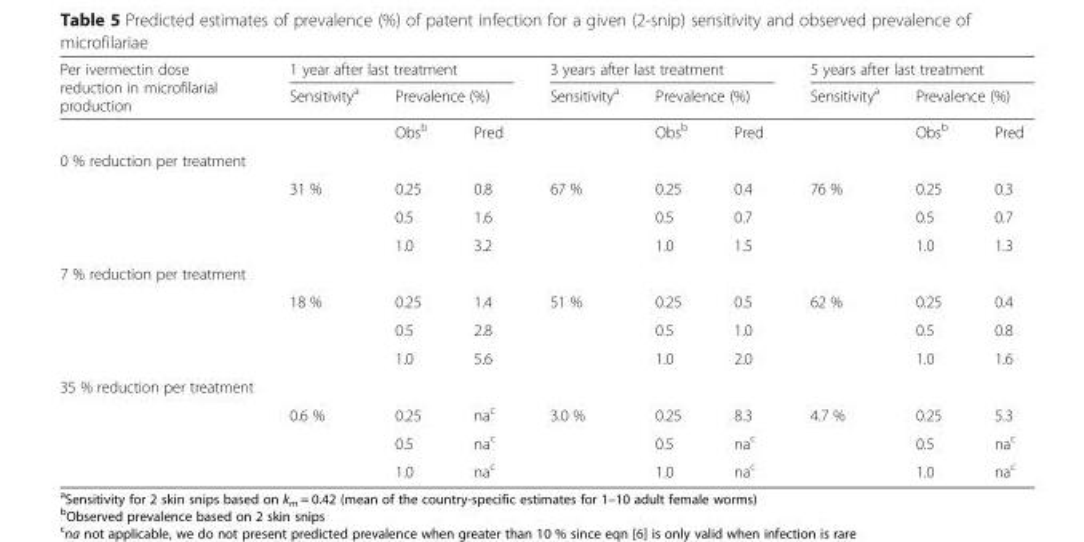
<table><thead><tr><td rowspan="3">Per ivermectin dose reduction in microfilarial production</td><td colspan="3">1 year after last treatment</td><td colspan="3">3 years after last treatment</td><td colspan="3">5 years after last treatment</td></tr><tr><td rowspan="2">Sensitivity<sup>a</sup></td><td colspan="2">Prevalence (%)</td><td rowspan="2">Sensitivity<sup>a</sup></td><td colspan="2">Prevalence (%)</td><td rowspan="2">Sensitivity<sup>a</sup></td><td colspan="2">Prevalence (%)</td></tr><tr><td>Obs<sup>b</sup></td><td>Pred</td><td>Obs<sup>b</sup></td><td>Pred</td><td>Obs<sup>b</sup></td><td>Pred</td></tr></thead><tbody><tr><td colspan="10">0 % reduction per treatment</td></tr><tr><td></td><td rowspan="3">31 %</td><td>0.25</td><td>0.8</td><td rowspan="3">67 %</td><td>0.25</td><td>0.4</td><td rowspan="3">76 %</td><td>0.25</td><td>0.3</td></tr><tr><td></td><td>0.5</td><td>1.6</td><td>0.5</td><td>0.7</td><td>0.5</td><td>0.7</td></tr><tr><td></td><td>1.0</td><td>3.2</td><td>1.0</td><td>1.5</td><td>1.0</td><td>1.3</td></tr><tr><td colspan="10">7 % reduction per treatment</td></tr><tr><td></td><td rowspan="3">18 %</td><td>0.25</td><td>1.4</td><td rowspan="3">51 %</td><td>0.25</td><td>0.5</td><td rowspan="3">62 %</td><td>0.25</td><td>0.4</td></tr><tr><td></td><td>0.5</td><td>2.8</td><td>0.5</td><td>1.0</td><td>0.5</td><td>0.8</td></tr><tr><td></td><td>1.0</td><td>5.6</td><td>1.0</td><td>2.0</td><td>1.0</td><td>1.6</td></tr><tr><td colspan="10">35 % reduction per treatment</td></tr><tr><td></td><td rowspan="3">0.6 %</td><td>0.25</td><td>na<sup>c</sup></td><td rowspan="3">3.0 %</td><td>0.25</td><td>8.3</td><td rowspan="3">4.7 %</td><td>0.25</td><td>5.3</td></tr><tr><td></td><td>0.5</td><td>na<sup>c</sup></td><td>0.5</td><td>na<sup>c</sup></td><td>0.5</td><td>na<sup>c</sup></td></tr><tr><td></td><td>1.0</td><td>na<sup>c</sup></td><td>1.0</td><td>na<sup>c</sup></td><td>1.0</td><td>na<sup>c</sup></td></tr></tbody></table>